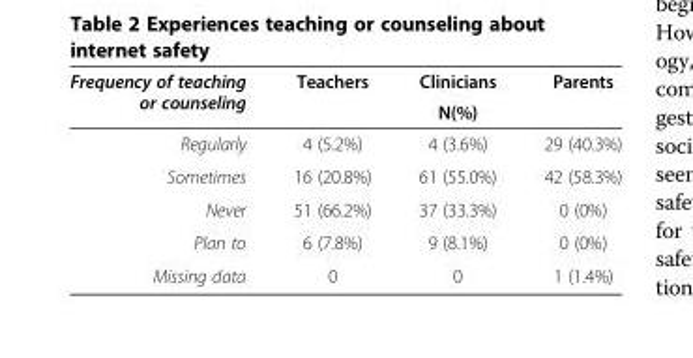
<table><thead><tr><td rowspan="2">Frequency of teaching or counseling</td><td>Teachers</td><td>Clinicians</td><td>Parents</td></tr><tr><td colspan="3">N(%)</td></tr></thead><tbody><tr><td>Regularly</td><td>4 (5.2%)</td><td>4 (3.6%)</td><td>29 (40.3%)</td></tr><tr><td>Sometimes</td><td>16 (20.8%)</td><td>61 (55.0%)</td><td>42 (58.3%)</td></tr><tr><td>Never</td><td>51 (66.2%)</td><td>37 (33.3%)</td><td>0 (0%)</td></tr><tr><td>Plan to</td><td>6 (7.8%)</td><td>9 (8.1%)</td><td>0 (0%)</td></tr><tr><td>Missing data</td><td>0</td><td>0</td><td>1 (1.4%)</td></tr></tbody></table>